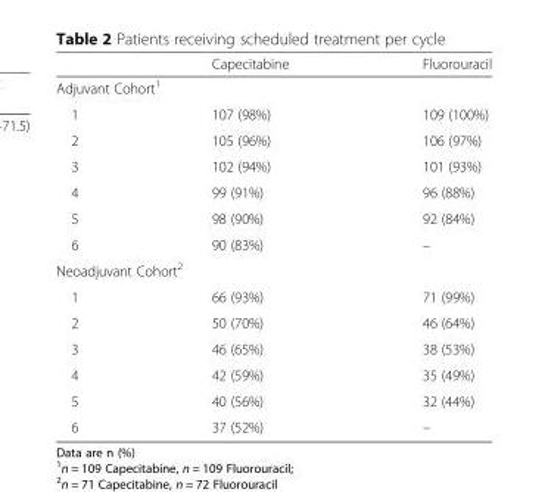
<table><thead><tr><td></td><td>Capecitabine</td><td>Fluorouracil</td></tr></thead><tbody><tr><td colspan="3">Adjuvant Cohort<sup>1</sup></td></tr><tr><td>1</td><td>107 (98%)</td><td>109 (100%)</td></tr><tr><td>2</td><td>105 (96%)</td><td>106 (97%)</td></tr><tr><td>3</td><td>102 (94%)</td><td>101 (93%)</td></tr><tr><td>4</td><td>99 (91%)</td><td>96 (88%)</td></tr><tr><td>5</td><td>98 (90%)</td><td>92 (84%)</td></tr><tr><td>6</td><td>90 (83%)</td><td>–</td></tr><tr><td colspan="3">Neoadjuvant Cohort<sup>2</sup></td></tr><tr><td>1</td><td>66 (93%)</td><td>71 (99%)</td></tr><tr><td>2</td><td>50 (70%)</td><td>46 (64%)</td></tr><tr><td>3</td><td>46 (65%)</td><td>38 (53%)</td></tr><tr><td>4</td><td>42 (59%)</td><td>35 (49%)</td></tr><tr><td>5</td><td>40 (56%)</td><td>32 (44%)</td></tr><tr><td>6</td><td>37 (52%)</td><td>–</td></tr></tbody></table>